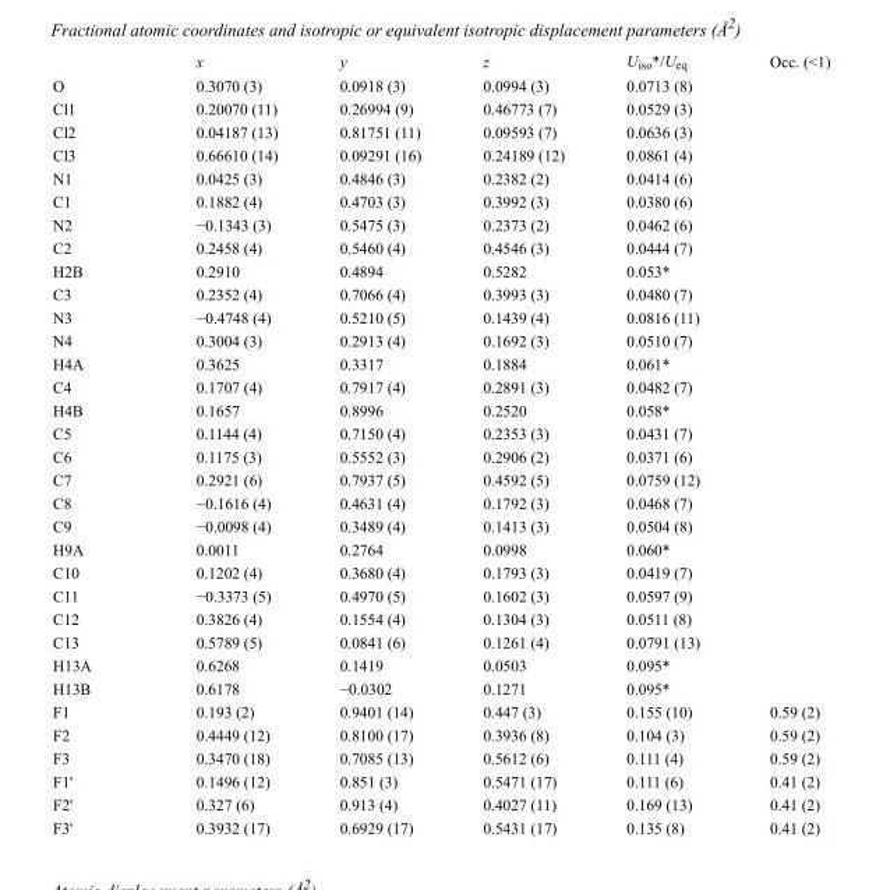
<table><thead><tr><td></td><td>x</td><td>y</td><td>z</td><td>U<sub>iso</sub>*/U<sub>eq</sub></td><td>Occ. (&lt;1)</td></tr></thead><tbody><tr><td>O</td><td>0.3070 (3)</td><td>0.0918 (3)</td><td>0.0994 (3)</td><td>0.0713 (8)</td><td></td></tr><tr><td>Cl1</td><td>0.20070 (11)</td><td>0.26994 (9)</td><td>0.46773 (7)</td><td>0.0529 (3)</td><td></td></tr><tr><td>Cl2</td><td>0.04187 (13)</td><td>0.81751 (11)</td><td>0.09593 (7)</td><td>0.0636 (3)</td><td></td></tr><tr><td>Cl3</td><td>0.66610 (14)</td><td>0.09291 (16)</td><td>0.24189 (12)</td><td>0.0861 (4)</td><td></td></tr><tr><td>N1</td><td>0.0425 (3)</td><td>0.4846 (3)</td><td>0.2382 (2)</td><td>0.0414 (6)</td><td></td></tr><tr><td>C1</td><td>0.1882 (4)</td><td>0.4703 (3)</td><td>0.3992 (3)</td><td>0.0380 (6)</td><td></td></tr><tr><td>N2</td><td>−0.1343 (3)</td><td>0.5475 (3)</td><td>0.2373 (2)</td><td>0.0462 (6)</td><td></td></tr><tr><td>C2</td><td>0.2458 (4)</td><td>0.5460 (4)</td><td>0.4546 (3)</td><td>0.0444 (7)</td><td></td></tr><tr><td>H2B</td><td>0.2910</td><td>0.4894</td><td>0.5282</td><td>0.053*</td><td></td></tr><tr><td>C3</td><td>0.2352 (4)</td><td>0.7066 (4)</td><td>0.3993 (3)</td><td>0.0480 (7)</td><td></td></tr><tr><td>N3</td><td>−0.4748 (4)</td><td>0.5210 (5)</td><td>0.1439 (4)</td><td>0.0816 (11)</td><td></td></tr><tr><td>N4</td><td>0.3004 (3)</td><td>0.2913 (4)</td><td>0.1692 (3)</td><td>0.0510 (7)</td><td></td></tr><tr><td>H4A</td><td>0.3625</td><td>0.3317</td><td>0.1884</td><td>0.061*</td><td></td></tr><tr><td>C4</td><td>0.1707 (4)</td><td>0.7917 (4)</td><td>0.2891 (3)</td><td>0.0482 (7)</td><td></td></tr><tr><td>H4B</td><td>0.1657</td><td>0.8996</td><td>0.2520</td><td>0.058*</td><td></td></tr><tr><td>C5</td><td>0.1144 (4)</td><td>0.7150 (4)</td><td>0.2353 (3)</td><td>0.0431 (7)</td><td></td></tr><tr><td>C6</td><td>0.1175 (3)</td><td>0.5552 (3)</td><td>0.2906 (2)</td><td>0.0371 (6)</td><td></td></tr><tr><td>C7</td><td>0.2921 (6)</td><td>0.7937 (5)</td><td>0.4592 (5)</td><td>0.0759 (12)</td><td></td></tr><tr><td>C8</td><td>−0.1616 (4)</td><td>0.4631 (4)</td><td>0.1792 (3)</td><td>0.0468 (7)</td><td></td></tr><tr><td>C9</td><td>−0.0098 (4)</td><td>0.3489 (4)</td><td>0.1413 (3)</td><td>0.0504 (8)</td><td></td></tr><tr><td>H9A</td><td>0.0011</td><td>0.2764</td><td>0.0998</td><td>0.060*</td><td></td></tr><tr><td>C10</td><td>0.1202 (4)</td><td>0.3680 (4)</td><td>0.1793 (3)</td><td>0.0419 (7)</td><td></td></tr><tr><td>C11</td><td>−0.3373 (5)</td><td>0.4970 (5)</td><td>0.1602 (3)</td><td>0.0597 (9)</td><td></td></tr><tr><td>C12</td><td>0.3826 (4)</td><td>0.1554 (4)</td><td>0.1304 (3)</td><td>0.0511 (8)</td><td></td></tr><tr><td>C13</td><td>0.5789 (5)</td><td>0.0841 (6)</td><td>0.1261 (4)</td><td>0.0791 (13)</td><td></td></tr><tr><td>H13A</td><td>0.6268</td><td>0.1419</td><td>0.0503</td><td>0.095*</td><td></td></tr><tr><td>H13B</td><td>0.6178</td><td>−0.0302</td><td>0.1271</td><td>0.095*</td><td></td></tr><tr><td>F1</td><td>0.193 (2)</td><td>0.9401 (14)</td><td>0.447 (3)</td><td>0.155 (10)</td><td>0.59 (2)</td></tr><tr><td>F2</td><td>0.4449 (12)</td><td>0.8100 (17)</td><td>0.3936 (8)</td><td>0.104 (3)</td><td>0.59 (2)</td></tr><tr><td>F3</td><td>0.3470 (18)</td><td>0.7085 (13)</td><td>0.5612 (6)</td><td>0.111 (4)</td><td>0.59 (2)</td></tr><tr><td>F1&#x27;</td><td>0.1496 (12)</td><td>0.851 (3)</td><td>0.5471 (17)</td><td>0.111 (6)</td><td>0.41 (2)</td></tr><tr><td>F2&#x27;</td><td>0.327 (6)</td><td>0.913 (4)</td><td>0.4027 (11)</td><td>0.169 (13)</td><td>0.41 (2)</td></tr><tr><td>F3&#x27;</td><td>0.3932 (17)</td><td>0.6929 (17)</td><td>0.5431 (17)</td><td>0.135 (8)</td><td>0.41 (2)</td></tr></tbody></table>